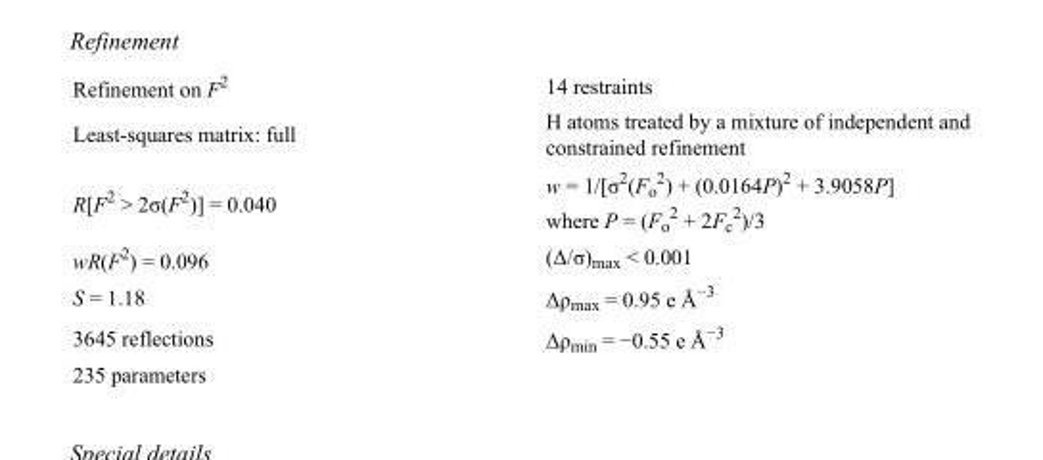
<table><tbody><tr><td>Refinement on F<sup>2</sup></td><td>14 restraints</td></tr><tr><td>Least-squares matrix: full</td><td>H atoms treated by a mixture of independent and constrained refinement</td></tr><tr><td>R[F<sup>2</sup> &gt; 2σ(F<sup>2</sup>)] = 0.040</td><td>w = 1/[σ<sup>2</sup>(F<sub>o</sub> <sup>2</sup>) + (0.0164P)<sup>2</sup> + 3.9058P] where P = (F<sub>o</sub> <sup>2</sup> + 2F<sub>c</sub> <sup>2</sup>)/3</td></tr><tr><td>wR(F<sup>2</sup>) = 0.096</td><td>(Δ/σ)<sub>max</sub> &lt; 0.001</td></tr><tr><td>S = 1.18</td><td>Δρ<sub>max</sub> = 0.95 e Å<sup>−3</sup></td></tr><tr><td>3645 reflections</td><td>Δρ<sub>min</sub> = −0.55 e Å<sup>−3</sup></td></tr><tr><td>235 parameters</td><td></td></tr></tbody></table>